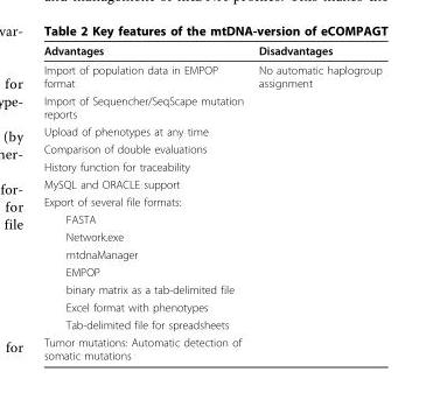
<table><thead><tr><td>Advantages</td><td>Disadvantages</td></tr></thead><tbody><tr><td>Import of population data in EMPOP format</td><td>No automatic haplogroup assignment</td></tr><tr><td colspan="2">Import of Sequencher/SeqScape mutation reports</td></tr><tr><td colspan="2">Upload of phenotypes at any time</td></tr><tr><td colspan="2">Comparison of double evaluations</td></tr><tr><td colspan="2">History function for traceability</td></tr><tr><td colspan="2">MySQL and ORACLE support</td></tr><tr><td colspan="2">Export of several file formats:</td></tr><tr><td colspan="2">FASTA</td></tr><tr><td colspan="2">Network.exe</td></tr><tr><td colspan="2">mtdnaManager</td></tr><tr><td colspan="2">EMPOP</td></tr><tr><td colspan="2">binary matrix as a tab-delimited file</td></tr><tr><td colspan="2">Excel format with phenotypes</td></tr><tr><td colspan="2">Tab-delimited file for spreadsheets</td></tr><tr><td>Tumor mutations: Automatic detection of somatic mutations</td><td></td></tr></tbody></table>